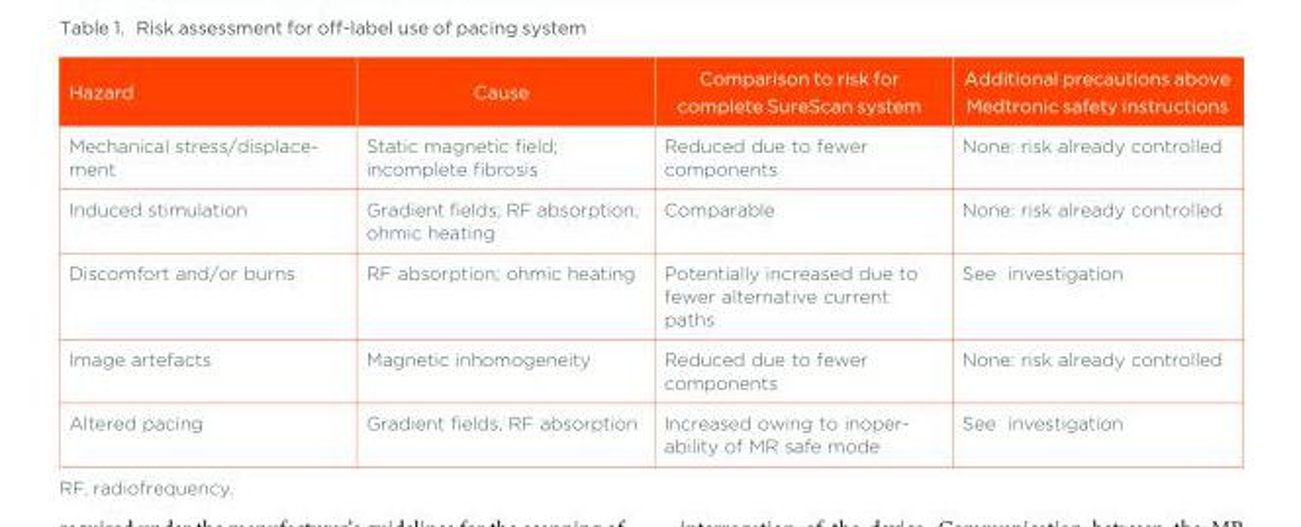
<table><thead><tr><td>Hazard</td><td>Cause</td><td>Comparison to risk for complete SureScan system</td><td>Additional precautions above Medtronic safety instructions</td></tr></thead><tbody><tr><td>Mechanical stress/displace- ment</td><td>Static magnetic field; incomplete fibrosis</td><td>Reduced due to fewer components</td><td>None: risk already controlled</td></tr><tr><td>Induced stimulation</td><td>Gradient fields; RF absorption; ohmic heating</td><td>Comparable</td><td>None: risk already controlled</td></tr><tr><td>Discomfort and/or burns</td><td>RF absorption; ohmic heating</td><td>Potentially increased due to fewer alternative current paths</td><td>See investigation</td></tr><tr><td>Image artefacts</td><td>Magnetic inhomogeneity</td><td>Reduced due to fewer components</td><td>None: risk already controlled</td></tr><tr><td>Altered pacing</td><td>Gradient fields, RF absorption</td><td>Increased owing to inoper- ability of MR safe mode</td><td>See investigation</td></tr></tbody></table>